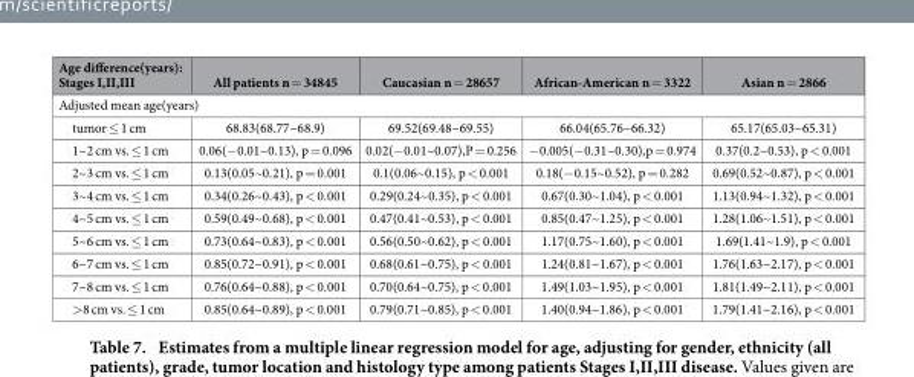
<table><thead><tr><td>Age difference(years): Stages I,II,III</td><td>All patients n = 34845</td><td>Caucasian n = 28657</td><td>African-American n = 3322</td><td>Asian n = 2866</td></tr></thead><tbody><tr><td colspan="5">Adjusted mean age(years)</td></tr><tr><td>tumor ≤ 1 cm</td><td>68.83(68.77~68.9)</td><td>69.52(69.48~69.55)</td><td>66.04(65.76~66.32)</td><td>65.17(65.03~65.31)</td></tr><tr><td>1~2 cm vs. ≤ 1 cm</td><td>0.06(− 0.01~0.13), p = 0.096</td><td>0.02(− 0.01~0.07),P = 0.256</td><td>− 0.005(− 0.31~0.30),p = 0.974</td><td>0.37(0.2~0.53), p &lt; 0.001</td></tr><tr><td>2~3 cm vs. ≤ 1 cm</td><td>0.13(0.05~0.21), p = 0.001</td><td>0.1(0.06~0.15), p &lt; 0.001</td><td>0.18(− 0.15~0.52), p = 0.282</td><td>0.69(0.52~0.87), p &lt; 0.001</td></tr><tr><td>3~4 cm vs. ≤ 1 cm</td><td>0.34(0.26~0.43), p &lt; 0.001</td><td>0.29(0.24~0.35), p &lt; 0.001</td><td>0.67(0.30~1.04), p &lt; 0.001</td><td>1.13(0.94~1.32), p &lt; 0.001</td></tr><tr><td>4~5 cm vs. ≤ 1 cm</td><td>0.59(0.49~0.68), p &lt; 0.001</td><td>0.47(0.41~0.53), p &lt; 0.001</td><td>0.85(0.47~1.25), p &lt; 0.001</td><td>1.28(1.06~1.51), p &lt; 0.001</td></tr><tr><td>5~6 cm vs. ≤ 1 cm</td><td>0.73(0.64~0.83), p &lt; 0.001</td><td>0.56(0.50~0.62), p &lt; 0.001</td><td>1.17(0.75~1.60), p &lt; 0.001</td><td>1.69(1.41~1.9), p &lt; 0.001</td></tr><tr><td>6~7 cm vs. ≤ 1 cm</td><td>0.85(0.72~0.91), p &lt; 0.001</td><td>0.68(0.61~0.75), p &lt; 0.001</td><td>1.24(0.81~1.67), p &lt; 0.001</td><td>1.76(1.63~2.17), p &lt; 0.001</td></tr><tr><td>7~8 cm vs. ≤ 1 cm</td><td>0.76(0.64~0.88), p &lt; 0.001</td><td>0.70(0.64~0.75), p &lt; 0.001</td><td>1.49(1.03~1.95), p &lt; 0.001</td><td>1.81(1.49~2.11), p &lt; 0.001</td></tr><tr><td>&gt; 8 cm vs. ≤ 1 cm</td><td>0.85(0.64~0.89), p &lt; 0.001</td><td>0.79(0.71~0.85), p &lt; 0.001</td><td>1.40(0.94~1.86), p &lt; 0.001</td><td>1.79(1.41~2.16), p &lt; 0.001</td></tr></tbody></table>